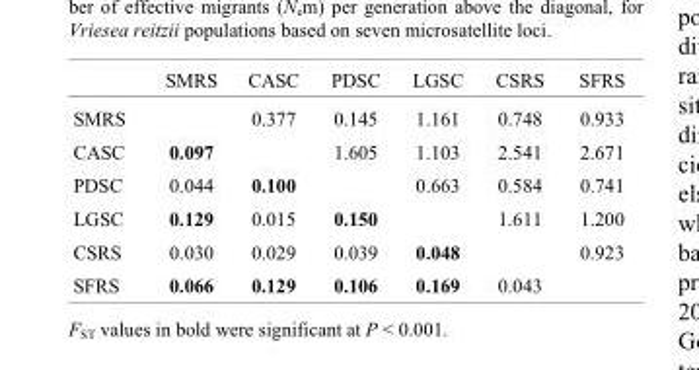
<table><thead><tr><td></td><td>SMRS</td><td>CASC</td><td>PDSC</td><td>LGSC</td><td>CSRS</td><td>SFRS</td></tr></thead><tbody><tr><td>SMRS</td><td></td><td>0.377</td><td>0.145</td><td>1.161</td><td>0.748</td><td>0.933</td></tr><tr><td>CASC</td><td>0.097</td><td></td><td>1.605</td><td>1.103</td><td>2.541</td><td>2.671</td></tr><tr><td>PDSC</td><td>0.044</td><td>0.100</td><td></td><td>0.663</td><td>0.584</td><td>0.741</td></tr><tr><td>LGSC</td><td>0.129</td><td>0.015</td><td>0.150</td><td></td><td>1.611</td><td>1.200</td></tr><tr><td>CSRS</td><td>0.030</td><td>0.029</td><td>0.039</td><td>0.048</td><td></td><td>0.923</td></tr><tr><td>SFRS</td><td>0.066</td><td>0.129</td><td>0.106</td><td>0.169</td><td>0.043</td><td></td></tr></tbody></table>